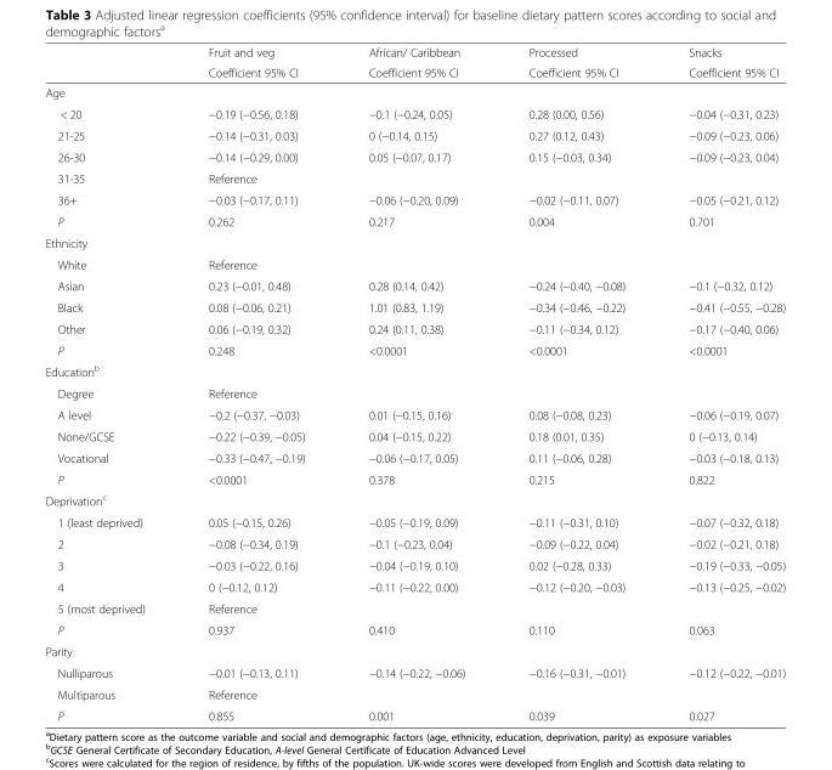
<table><thead><tr><td rowspan="2"></td><td rowspan="2">Fruit and veg Coefficient 95% CI</td><td rowspan="2">African/ Caribbean Coefficient 95% CI</td><td rowspan="2">Processed Coefficient 95% CI</td><td rowspan="2">Snacks Coefficient 95% CI</td></tr><tr></tr></thead><tbody><tr><td colspan="5">Age</td></tr><tr><td>&lt; 20</td><td>−0.19 (−0.56, 0.18)</td><td>−0.1 (−0.24, 0.05)</td><td>0.28 (0.00, 0.56)</td><td>−0.04 (−0.31, 0.23)</td></tr><tr><td>21-25</td><td>−0.14 (−0.31, 0.03)</td><td>0 (−0.14, 0.15)</td><td>0.27 (0.12, 0.43)</td><td>−0.09 (−0.23, 0.06)</td></tr><tr><td>26-30</td><td>−0.14 (−0.29, 0.00)</td><td>0.05 (−0.07, 0.17)</td><td>0.15 (−0.03, 0.34)</td><td>−0.09 (−0.23, 0.04)</td></tr><tr><td>31-35</td><td>Reference</td><td></td><td></td><td></td></tr><tr><td>36+</td><td>−0.03 (−0.17, 0.11)</td><td>−0.06 (−0.20, 0.09)</td><td>−0.02 (−0.11, 0.07)</td><td>−0.05 (−0.21, 0.12)</td></tr><tr><td>P</td><td>0.262</td><td>0.217</td><td>0.004</td><td>0.701</td></tr><tr><td colspan="5">Ethnicity</td></tr><tr><td>White</td><td>Reference</td><td></td><td></td><td></td></tr><tr><td>Asian</td><td>0.23 (−0.01, 0.48)</td><td>0.28 (0.14, 0.42)</td><td>−0.24 (−0.40, −0.08)</td><td>−0.1 (−0.32, 0.12)</td></tr><tr><td>Black</td><td>0.08 (−0.06, 0.21)</td><td>1.01 (0.83, 1.19)</td><td>−0.34 (−0.46, −0.22)</td><td>−0.41 (−0.55, −0.28)</td></tr><tr><td>Other</td><td>0.06 (−0.19, 0.32)</td><td>0.24 (0.11, 0.38)</td><td>−0.11 (−0.34, 0.12)</td><td>−0.17 (−0.40, 0.06)</td></tr><tr><td>P</td><td>0.248</td><td>&lt;0.0001</td><td>&lt;0.0001</td><td>&lt;0.0001</td></tr><tr><td colspan="5">Education<sup>b</sup></td></tr><tr><td>Degree</td><td>Reference</td><td></td><td></td><td></td></tr><tr><td>A level</td><td>−0.2 (−0.37, −0.03)</td><td>0.01 (−0.15, 0.16)</td><td>0.08 (−0.08, 0.23)</td><td>−0.06 (−0.19, 0.07)</td></tr><tr><td>None/GCSE</td><td>−0.22 (−0.39, −0.05)</td><td>0.04 (−0.15, 0.22)</td><td>0.18 (0.01, 0.35)</td><td>0 (−0.13, 0.14)</td></tr><tr><td>Vocational</td><td>−0.33 (−0.47, −0.19)</td><td>−0.06 (−0.17, 0.05)</td><td>0.11 (−0.06, 0.28)</td><td>−0.03 (−0.18, 0.13)</td></tr><tr><td>P</td><td>&lt;0.0001</td><td>0.378</td><td>0.215</td><td>0.822</td></tr><tr><td colspan="5">Deprivation<sup>c</sup></td></tr><tr><td>1 (least deprived)</td><td>0.05 (−0.15, 0.26)</td><td>−0.05 (−0.19, 0.09)</td><td>−0.11 (−0.31, 0.10)</td><td>−0.07 (−0.32, 0.18)</td></tr><tr><td>2</td><td>−0.08 (−0.34, 0.19)</td><td>−0.1 (−0.23, 0.04)</td><td>−0.09 (−0.22, 0.04)</td><td>−0.02 (−0.21, 0.18)</td></tr><tr><td>3</td><td>−0.03 (−0.22, 0.16)</td><td>−0.04 (−0.19, 0.10)</td><td>0.02 (−0.28, 0.33)</td><td>−0.19 (−0.33, −0.05)</td></tr><tr><td>4</td><td>0 (−0.12, 0.12)</td><td>−0.11 (−0.22, 0.00)</td><td>−0.12 (−0.20, −0.03)</td><td>−0.13 (−0.25, −0.02)</td></tr><tr><td>5 (most deprived)</td><td>Reference</td><td></td><td></td><td></td></tr><tr><td>P</td><td>0.937</td><td>0.410</td><td>0.110</td><td>0.063</td></tr><tr><td colspan="5">Parity</td></tr><tr><td>Nulliparous</td><td>−0.01 (−0.13, 0.11)</td><td>−0.14 (−0.22, −0.06)</td><td>−0.16 (−0.31, −0.01)</td><td>−0.12 (−0.22, −0.01)</td></tr><tr><td>Multiparous</td><td>Reference</td><td></td><td></td><td></td></tr><tr><td>P</td><td>0.855</td><td>0.001</td><td>0.039</td><td>0.027</td></tr></tbody></table>